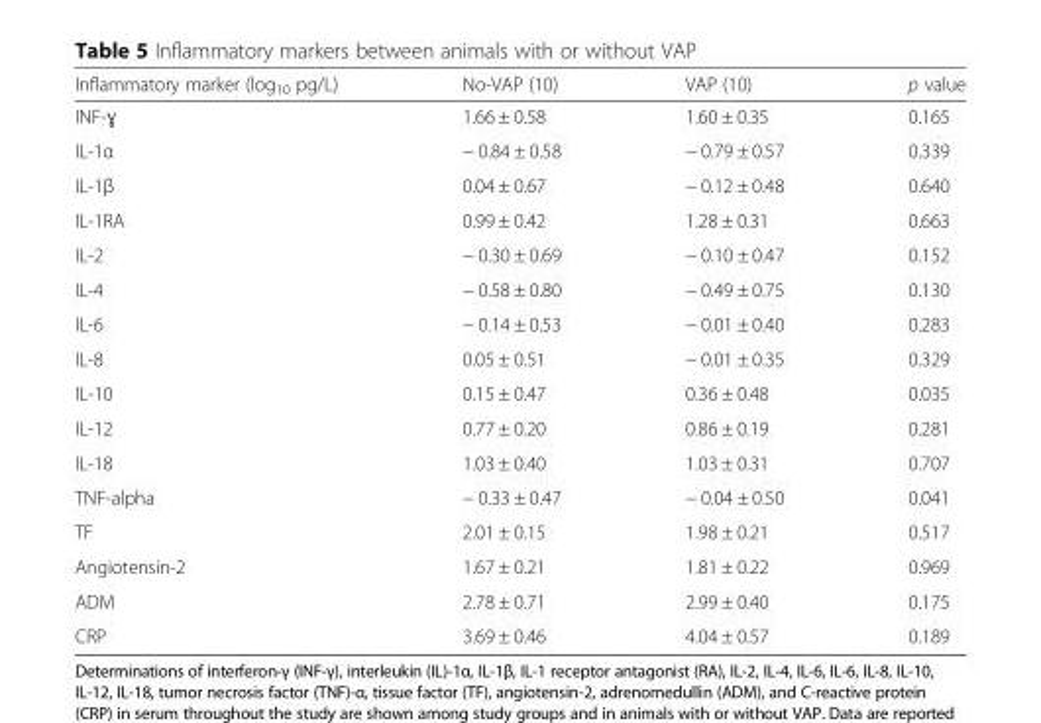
<table><thead><tr><td>Inflammatory marker (log<sub>10</sub> pg/L)</td><td>No-VAP (10)</td><td>VAP (10)</td><td>p value</td></tr></thead><tbody><tr><td>INF-ɣ</td><td>1.66 ± 0.58</td><td>1.60 ± 0.35</td><td>0.165</td></tr><tr><td>IL-1α</td><td>− 0.84 ± 0.58</td><td>− 0.79 ± 0.57</td><td>0.339</td></tr><tr><td>IL-1β</td><td>0.04 ± 0.67</td><td>− 0.12 ± 0.48</td><td>0.640</td></tr><tr><td>IL-1RA</td><td>0.99 ± 0.42</td><td>1.28 ± 0.31</td><td>0.663</td></tr><tr><td>IL-2</td><td>− 0.30 ± 0.69</td><td>− 0.10 ± 0.47</td><td>0.152</td></tr><tr><td>IL-4</td><td>− 0.58 ± 0.80</td><td>− 0.49 ± 0.75</td><td>0.130</td></tr><tr><td>IL-6</td><td>− 0.14 ± 0.53</td><td>− 0.01 ± 0.40</td><td>0.283</td></tr><tr><td>IL-8</td><td>0.05 ± 0.51</td><td>− 0.01 ± 0.35</td><td>0.329</td></tr><tr><td>IL-10</td><td>0.15 ± 0.47</td><td>0.36 ± 0.48</td><td>0.035</td></tr><tr><td>IL-12</td><td>0.77 ± 0.20</td><td>0.86 ± 0.19</td><td>0.281</td></tr><tr><td>IL-18</td><td>1.03 ± 0.40</td><td>1.03 ± 0.31</td><td>0.707</td></tr><tr><td>TNF-alpha</td><td>− 0.33 ± 0.47</td><td>− 0.04 ± 0.50</td><td>0.041</td></tr><tr><td>TF</td><td>2.01 ± 0.15</td><td>1.98 ± 0.21</td><td>0.517</td></tr><tr><td>Angiotensin-2</td><td>1.67 ± 0.21</td><td>1.81 ± 0.22</td><td>0.969</td></tr><tr><td>ADM</td><td>2.78 ± 0.71</td><td>2.99 ± 0.40</td><td>0.175</td></tr><tr><td>CRP</td><td>3.69 ± 0.46</td><td>4.04 ± 0.57</td><td>0.189</td></tr></tbody></table>